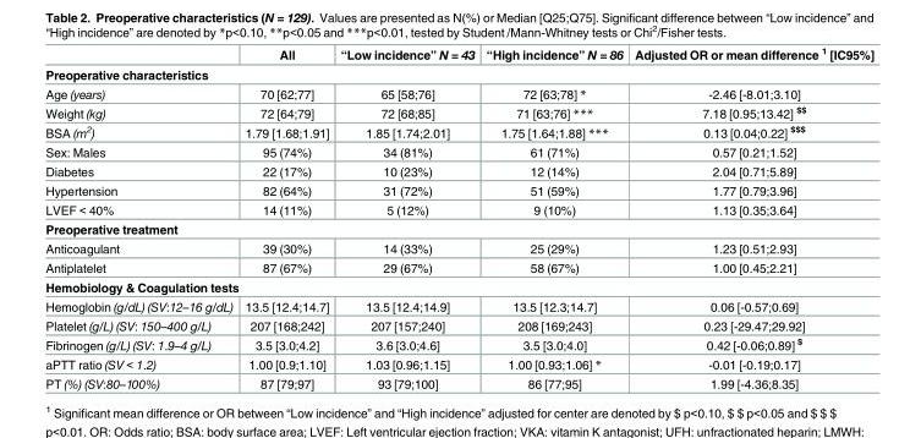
<table><thead><tr><td></td><td>All</td><td>“Low incidence” N = 43</td><td>“High incidence” N = 86</td><td>Adjusted OR or mean difference <sup>1</sup> [IC95%]</td></tr></thead><tbody><tr><td colspan="5">Preoperative characteristics</td></tr><tr><td>Age (years)</td><td>70 [62;77]</td><td>65 [58;76]</td><td>72 [63;78] *</td><td>-2.46 [-8.01;3.10]</td></tr><tr><td>Weight (kg)</td><td>72 [64;79]</td><td>72 [68;85]</td><td>71 [63;76] ***</td><td>7.18 [0.95;13.42] <sup>$$</sup></td></tr><tr><td>BSA (m<sup>2</sup>)</td><td>1.79 [1.68;1.91]</td><td>1.85 [1.74;2.01]</td><td>1.75 [1.64;1.88] ***</td><td>0.13 [0.04;0.22] <sup>$$$</sup></td></tr><tr><td>Sex: Males</td><td>95 (74%)</td><td>34 (81%)</td><td>61 (71%)</td><td>0.57 [0.21;1.52]</td></tr><tr><td>Diabetes</td><td>22 (17%)</td><td>10 (23%)</td><td>12 (14%)</td><td>2.04 [0.71;5.89]</td></tr><tr><td>Hypertension</td><td>82 (64%)</td><td>31 (72%)</td><td>51 (59%)</td><td>1.77 [0.79;3.96]</td></tr><tr><td>LVEF &lt; 40%</td><td>14 (11%)</td><td>5 (12%)</td><td>9 (10%)</td><td>1.13 [0.35;3.64]</td></tr><tr><td colspan="5">Preoperative treatment</td></tr><tr><td>Anticoagulant</td><td>39 (30%)</td><td>14 (33%)</td><td>25 (29%)</td><td>1.23 [0.51;2.93]</td></tr><tr><td>Antiplatelet</td><td>87 (67%)</td><td>29 (67%)</td><td>58 (67%)</td><td>1.00 [0.45;2.21]</td></tr><tr><td colspan="5">Hemobiology &amp; Coagulation tests</td></tr><tr><td>Hemoglobin (g/dL) (SV:12–16 g/dL)</td><td>13.5 [12.4;14.7]</td><td>13.5 [12.4;14.9]</td><td>13.5 [12.3;14.7]</td><td>0.06 [-0.57;0.69]</td></tr><tr><td>Platelet (g/L) (SV: 150–400 g/L)</td><td>207 [168;242]</td><td>207 [157;240]</td><td>208 [169;243]</td><td>0.23 [-29.47;29.92]</td></tr><tr><td>Fibrinogen (g/L) (SV: 1.9–4 g/L)</td><td>3.5 [3.0;4.2]</td><td>3.6 [3.0;4.6]</td><td>3.5 [3.0;4.0]</td><td>0.42 [-0.06;0.89] <sup>$</sup></td></tr><tr><td>aPTT ratio (SV &lt; 1.2)</td><td>1.00 [0.9;1.10]</td><td>1.03 [0.96;1.15]</td><td>1.00 [0.93;1.06] *</td><td>-0.01 [-0.19;0.17]</td></tr><tr><td>PT (%) (SV:80–100%)</td><td>87 [79;97]</td><td>93 [79;100]</td><td>86 [77;95]</td><td>1.99 [-4.36;8.35]</td></tr></tbody></table>